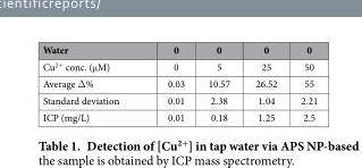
<table><thead><tr><td>Water</td><td>0</td><td>0</td><td>0</td><td>0</td></tr></thead><tbody><tr><td>Cu<sup>2+</sup> conc. (μ M)</td><td>0</td><td>5</td><td>25</td><td>50</td></tr><tr><td>Average Δ %</td><td>0.03</td><td>10.57</td><td>26.52</td><td>55</td></tr><tr><td>Standard deviation</td><td>0.01</td><td>2.38</td><td>1.04</td><td>2.21</td></tr><tr><td>ICP (mg/L)</td><td>0.01</td><td>0.18</td><td>1.25</td><td>2.5</td></tr></tbody></table>